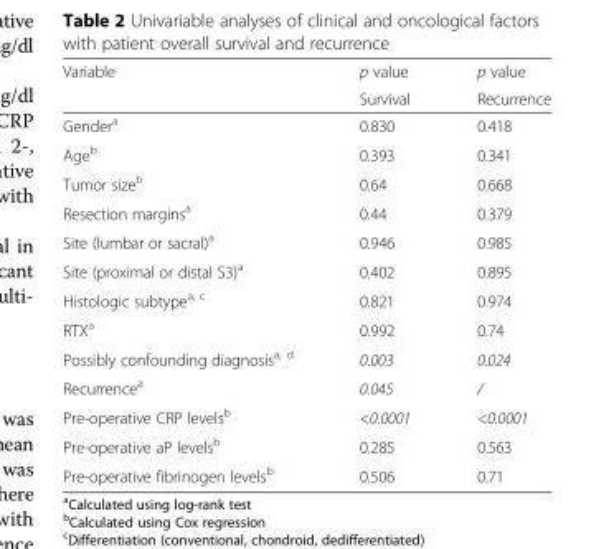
<table><thead><tr><td rowspan="2">Variable</td><td rowspan="2">p value Survival</td><td rowspan="2">p value Recurrence</td></tr><tr></tr></thead><tbody><tr><td>Gender<sup>a</sup></td><td>0.830</td><td>0.418</td></tr><tr><td>Age<sup>b</sup></td><td>0.393</td><td>0.341</td></tr><tr><td>Tumor size<sup>b</sup></td><td>0.64</td><td>0.668</td></tr><tr><td>Resection margins<sup>a</sup></td><td>0.44</td><td>0.379</td></tr><tr><td>Site (lumbar or sacral)<sup>a</sup></td><td>0.946</td><td>0.985</td></tr><tr><td>Site (proximal or distal S3)<sup>a</sup></td><td>0.402</td><td>0.895</td></tr><tr><td>Histologic subtype<sup>a, c</sup></td><td>0.821</td><td>0.974</td></tr><tr><td>RTX<sup>a</sup></td><td>0.992</td><td>0.74</td></tr><tr><td>Possibly confounding diagnosis<sup>a, d</sup></td><td>0.003</td><td>0.024</td></tr><tr><td>Recurrence<sup>a</sup></td><td>0.045</td><td>/</td></tr><tr><td>Pre-operative CRP levels<sup>b</sup></td><td>&lt;0.0001</td><td>&lt;0.0001</td></tr><tr><td>Pre-operative aP levels<sup>b</sup></td><td>0.285</td><td>0.563</td></tr><tr><td>Pre-operative fibrinogen levels<sup>b</sup></td><td>0.506</td><td>0.71</td></tr></tbody></table>